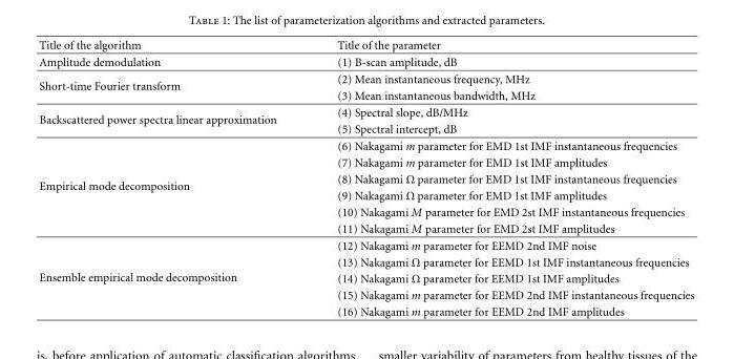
<table><thead><tr><td>Title of the algorithm</td><td>Title of the parameter</td></tr></thead><tbody><tr><td>Amplitude demodulation</td><td>(1) B-scan amplitude, dB</td></tr><tr><td rowspan="2">Short-time Fourier transform</td><td>(2) Mean instantaneous frequency, MHz</td></tr><tr><td>(3) Mean instantaneous bandwidth, MHz</td></tr><tr><td rowspan="2">Backscattered power spectra linear approximation</td><td>(4) Spectral slope, dB/MHz</td></tr><tr><td>(5) Spectral intercept, dB</td></tr><tr><td rowspan="6">Empirical mode decomposition</td><td>(6) Nakagami m parameter for EMD 1st IMF instantaneous frequencies</td></tr><tr><td>(7) Nakagami m parameter for EMD 1st IMF amplitudes</td></tr><tr><td>(8) Nakagami Ω parameter for EMD 1st IMF instantaneous frequencies</td></tr><tr><td>(9) Nakagami Ω parameter for EMD 1st IMF amplitudes</td></tr><tr><td>(10) Nakagami M parameter for EMD 2st IMF instantaneous frequencies</td></tr><tr><td>(11) Nakagami M parameter for EMD 2st IMF amplitudes</td></tr><tr><td rowspan="5">Ensemble empirical mode decomposition</td><td>(12) Nakagami m parameter for EEMD 2nd IMF noise</td></tr><tr><td>(13) Nakagami Ω parameter for EEMD 1st IMF instantaneous frequencies</td></tr><tr><td>(14) Nakagami Ω parameter for EEMD 1st IMF amplitudes</td></tr><tr><td>(15) Nakagami m parameter for EEMD 2nd IMF instantaneous frequencies</td></tr><tr><td>(16) Nakagami m parameter for EEMD 2nd IMF amplitudes</td></tr></tbody></table>